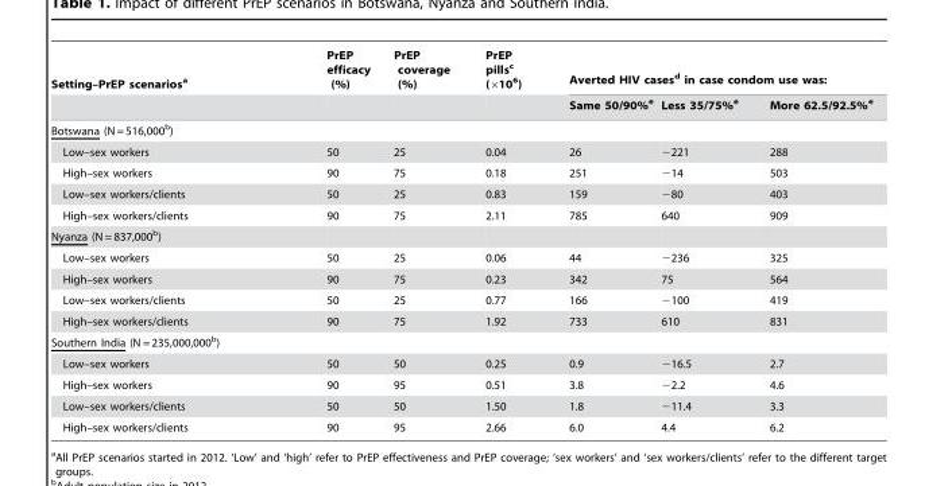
<table><thead><tr><td rowspan="2">Setting–PrEP scenarios<sup>a</sup></td><td rowspan="2">PrEP efficacy (%)</td><td rowspan="2">PrEP coverage (%)</td><td rowspan="2">PrEP pills<sup>c</sup> (×10<sup>6</sup>)</td><td colspan="3">Averted HIV cases<sup>d</sup> in case condom use was:</td></tr><tr><td>Same 50/90%<sup>e</sup></td><td>Less 35/75%<sup>e</sup></td><td>More 62.5/92.5%<sup>e</sup></td></tr></thead><tbody><tr><td colspan="7">Botswana (N = 516,000<sup>b</sup>)</td></tr><tr><td>Low–sex workers</td><td>50</td><td>25</td><td>0.04</td><td>26</td><td>−221</td><td>288</td></tr><tr><td>High–sex workers</td><td>90</td><td>75</td><td>0.18</td><td>251</td><td>−14</td><td>503</td></tr><tr><td>Low–sex workers/clients</td><td>50</td><td>25</td><td>0.83</td><td>159</td><td>−80</td><td>403</td></tr><tr><td>High–sex workers/clients</td><td>90</td><td>75</td><td>2.11</td><td>785</td><td>640</td><td>909</td></tr><tr><td colspan="7">Nyanza (N = 837,000<sup>b</sup>)</td></tr><tr><td>Low–sex workers</td><td>50</td><td>25</td><td>0.06</td><td>44</td><td>−236</td><td>325</td></tr><tr><td>High–sex workers</td><td>90</td><td>75</td><td>0.23</td><td>342</td><td>75</td><td>564</td></tr><tr><td>Low–sex workers/clients</td><td>50</td><td>25</td><td>0.77</td><td>166</td><td>−100</td><td>419</td></tr><tr><td>High–sex workers/clients</td><td>90</td><td>75</td><td>1.92</td><td>733</td><td>610</td><td>831</td></tr><tr><td colspan="7">Southern India (N = 235,000,000<sup>b</sup>)</td></tr><tr><td>Low–sex workers</td><td>50</td><td>50</td><td>0.25</td><td>0.9</td><td>−16.5</td><td>2.7</td></tr><tr><td>High–sex workers</td><td>90</td><td>95</td><td>0.51</td><td>3.8</td><td>−2.2</td><td>4.6</td></tr><tr><td>Low–sex workers/clients</td><td>50</td><td>50</td><td>1.50</td><td>1.8</td><td>−11.4</td><td>3.3</td></tr><tr><td>High–sex workers/clients</td><td>90</td><td>95</td><td>2.66</td><td>6.0</td><td>4.4</td><td>6.2</td></tr></tbody></table>